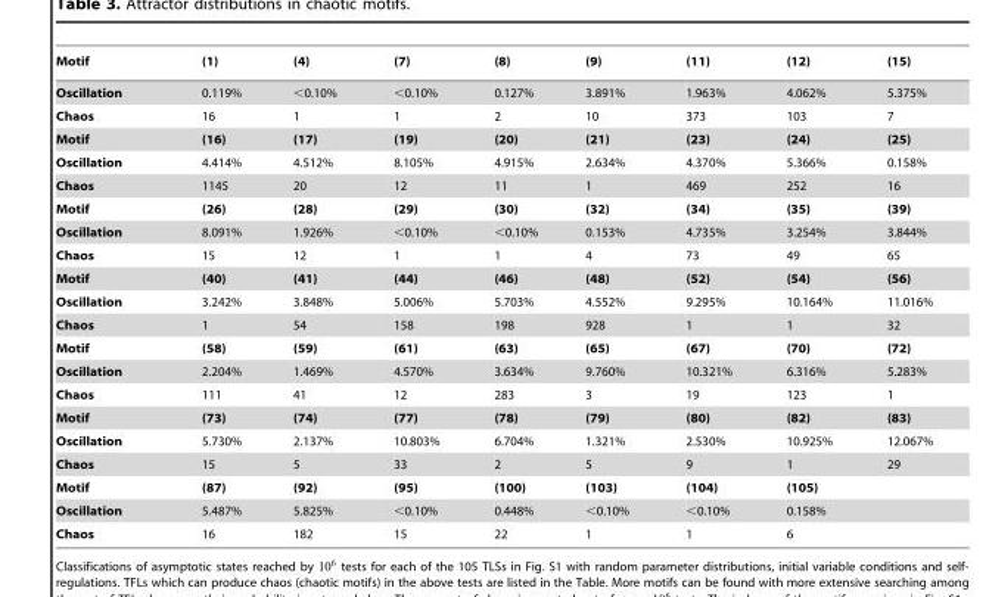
<table><thead><tr><td>Motif</td><td>(1)</td><td>(4)</td><td>(7)</td><td>(8)</td><td>(9)</td><td>(11)</td><td>(12)</td><td>(15)</td></tr></thead><tbody><tr><td>Oscillation</td><td>0.119%</td><td>&lt;0.10%</td><td>&lt;0.10%</td><td>0.127%</td><td>3.891%</td><td>1.963%</td><td>4.062%</td><td>5.375%</td></tr><tr><td>Chaos</td><td>16</td><td>1</td><td>1</td><td>2</td><td>10</td><td>373</td><td>103</td><td>7</td></tr><tr><td>Motif</td><td>(16)</td><td>(17)</td><td>(19)</td><td>(20)</td><td>(21)</td><td>(23)</td><td>(24)</td><td>(25)</td></tr><tr><td>Oscillation</td><td>4.414%</td><td>4.512%</td><td>8.105%</td><td>4.915%</td><td>2.634%</td><td>4.370%</td><td>5.366%</td><td>0.158%</td></tr><tr><td>Chaos</td><td>1145</td><td>20</td><td>12</td><td>11</td><td>1</td><td>469</td><td>252</td><td>16</td></tr><tr><td>Motif</td><td>(26)</td><td>(28)</td><td>(29)</td><td>(30)</td><td>(32)</td><td>(34)</td><td>(35)</td><td>(39)</td></tr><tr><td>Oscillation</td><td>8.091%</td><td>1.926%</td><td>&lt;0.10%</td><td>&lt;0.10%</td><td>0.153%</td><td>4.735%</td><td>3.254%</td><td>3.844%</td></tr><tr><td>Chaos</td><td>15</td><td>12</td><td>1</td><td>1</td><td>4</td><td>73</td><td>49</td><td>65</td></tr><tr><td>Motif</td><td>(40)</td><td>(41)</td><td>(44)</td><td>(46)</td><td>(48)</td><td>(52)</td><td>(54)</td><td>(56)</td></tr><tr><td>Oscillation</td><td>3.242%</td><td>3.848%</td><td>5.006%</td><td>5.703%</td><td>4.552%</td><td>9.295%</td><td>10.164%</td><td>11.016%</td></tr><tr><td>Chaos</td><td>1</td><td>54</td><td>158</td><td>198</td><td>928</td><td>1</td><td>1</td><td>32</td></tr><tr><td>Motif</td><td>(58)</td><td>(59)</td><td>(61)</td><td>(63)</td><td>(65)</td><td>(67)</td><td>(70)</td><td>(72)</td></tr><tr><td>Oscillation</td><td>2.204%</td><td>1.469%</td><td>4.570%</td><td>3.634%</td><td>9.760%</td><td>10.321%</td><td>6.316%</td><td>5.283%</td></tr><tr><td>Chaos</td><td>111</td><td>41</td><td>12</td><td>283</td><td>3</td><td>19</td><td>123</td><td>1</td></tr><tr><td>Motif</td><td>(73)</td><td>(74)</td><td>(77)</td><td>(78)</td><td>(79)</td><td>(80)</td><td>(82)</td><td>(83)</td></tr><tr><td>Oscillation</td><td>5.730%</td><td>2.137%</td><td>10.803%</td><td>6.704%</td><td>1.321%</td><td>2.530%</td><td>10.925%</td><td>12.067%</td></tr><tr><td>Chaos</td><td>15</td><td>5</td><td>33</td><td>2</td><td>5</td><td>9</td><td>1</td><td>29</td></tr><tr><td>Motif</td><td>(87)</td><td>(92)</td><td>(95)</td><td>(100)</td><td>(103)</td><td>(104)</td><td>(105)</td><td></td></tr><tr><td>Oscillation</td><td>5.487%</td><td>5.825%</td><td>&lt;0.10%</td><td>0.448%</td><td>&lt;0.10%</td><td>&lt;0.10%</td><td>0.158%</td><td></td></tr><tr><td>Chaos</td><td>16</td><td>182</td><td>15</td><td>22</td><td>1</td><td>1</td><td>6</td><td></td></tr></tbody></table>